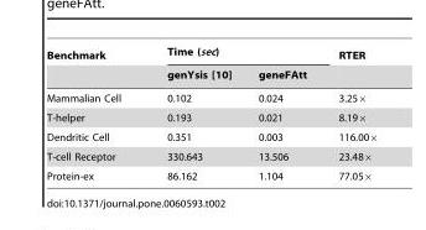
<table><thead><tr><td rowspan="2">Benchmark</td><td colspan="2">Time (sec)</td><td rowspan="2">RTER</td></tr><tr><td>genYsis [10]</td><td>geneFAtt</td></tr></thead><tbody><tr><td>Mammalian Cell</td><td>0.102</td><td>0.024</td><td>3.25×</td></tr><tr><td>T-helper</td><td>0.193</td><td>0.021</td><td>8.19×</td></tr><tr><td>Dendritic Cell</td><td>0.351</td><td>0.003</td><td>116.00×</td></tr><tr><td>T-cell Receptor</td><td>330.643</td><td>13.506</td><td>23.48×</td></tr><tr><td>Protein-ex</td><td>86.162</td><td>1.104</td><td>77.05×</td></tr></tbody></table>